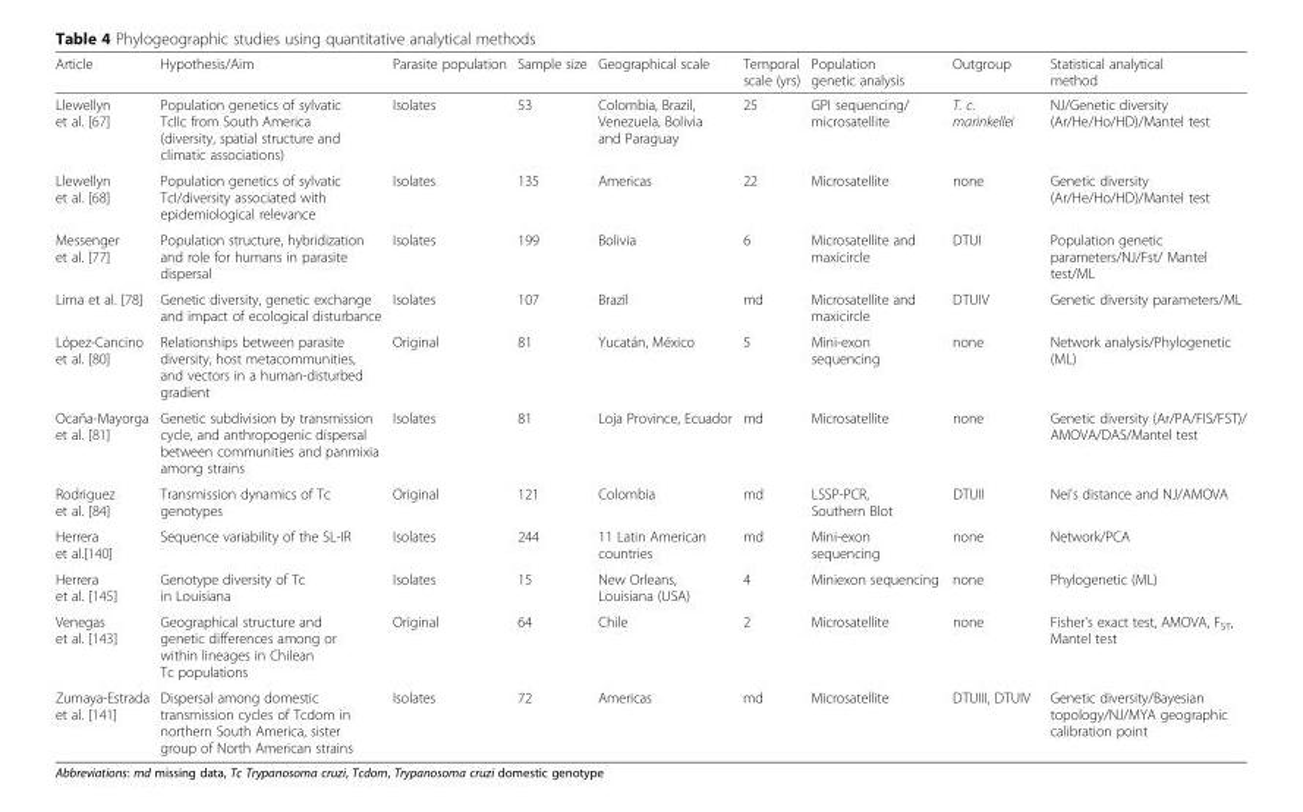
<table><thead><tr><td>Article</td><td>Hypothesis/Aim</td><td>Parasite population</td><td>Sample size</td><td>Geographical scale</td><td>Temporal scale (yrs)</td><td>Population genetic analysis</td><td>Outgroup</td><td>Statistical analytical method</td></tr></thead><tbody><tr><td>Llewellyn et al. [67]</td><td>Population genetics of sylvatic TcIIc from South America (diversity, spatial structure and climatic associations)</td><td>Isolates</td><td>53</td><td>Colombia, Brazil, Venezuela, Bolivia and Paraguay</td><td>25</td><td>GPI sequencing/ microsatellite</td><td>T. c. marinkellei</td><td>NJ/Genetic diversity (Ar/He/Ho/HD)/Mantel test</td></tr><tr><td>Llewellyn et al. [68]</td><td>Population genetics of sylvatic TcI/diversity associated with epidemiological relevance</td><td>Isolates</td><td>135</td><td>Americas</td><td>22</td><td>Microsatellite</td><td>none</td><td>Genetic diversity (Ar/He/Ho/HD)/Mantel test</td></tr><tr><td>Messenger et al. [77]</td><td>Population structure, hybridization and role for humans in parasite dispersal</td><td>Isolates</td><td>199</td><td>Bolivia</td><td>6</td><td>Microsatellite and maxicircle</td><td>DTUI</td><td>Population genetic parameters/NJ/Fst/ Mantel test/ML</td></tr><tr><td>Lima et al. [78]</td><td>Genetic diversity, genetic exchange and impact of ecological disturbance</td><td>Isolates</td><td>107</td><td>Brazil</td><td>md</td><td>Microsatellite and maxicircle</td><td>DTUIV</td><td>Genetic diversity parameters/ML</td></tr><tr><td>López-Cancino et al. [80]</td><td>Relationships between parasite diversity, host metacommunities, and vectors in a human-disturbed gradient</td><td>Original</td><td>81</td><td>Yucatán, México</td><td>5</td><td>Mini-exon sequencing</td><td>none</td><td>Network analysis/Phylogenetic (ML)</td></tr><tr><td>Ocaña-Mayorga et al. [81]</td><td>Genetic subdivision by transmission cycle, and anthropogenic dispersal between communities and panmixia among strains</td><td>Isolates</td><td>81</td><td>Loja Province, Ecuador</td><td>md</td><td>Microsatellite</td><td>none</td><td>Genetic diversity (Ar/PA/FIS/FST)/ AMOVA/DAS/Mantel test</td></tr><tr><td>Rodriguez et al. [84]</td><td>Transmission dynamics of Tc genotypes</td><td>Original</td><td>121</td><td>Colombia</td><td>md</td><td>LSSP-PCR, Southern Blot</td><td>DTUII</td><td>Nei&#x27;s distance and NJ/AMOVA</td></tr><tr><td>Herrera et al.[140]</td><td>Sequence variability of the SL-IR</td><td>Isolates</td><td>244</td><td>11 Latin American countries</td><td>md</td><td>Mini-exon sequencing</td><td>none</td><td>Network/PCA</td></tr><tr><td>Herrera et al. [145]</td><td>Genotype diversity of Tc in Louisiana</td><td>Isolates</td><td>15</td><td>New Orleans, Louisiana (USA)</td><td>4</td><td>Miniexon sequencing</td><td>none</td><td>Phylogenetic (ML)</td></tr><tr><td>Venegas et al. [143]</td><td>Geographical structure and genetic differences among or within lineages in Chilean Tc populations</td><td>Original</td><td>64</td><td>Chile</td><td>2</td><td>Microsatellite</td><td>none</td><td>Fisher&#x27;s exact test, AMOVA, F<sub>ST</sub>, Mantel test</td></tr><tr><td>Zumaya-Estrada et al. [141]</td><td>Dispersal among domestic transmission cycles of Tcdom in northern South America, sister group of North American strains</td><td>Isolates</td><td>72</td><td>Americas</td><td>md</td><td>Microsatellite</td><td>DTUIII, DTUIV</td><td>Genetic diversity/Bayesian topology/NJ/MYA geographic calibration point</td></tr></tbody></table>